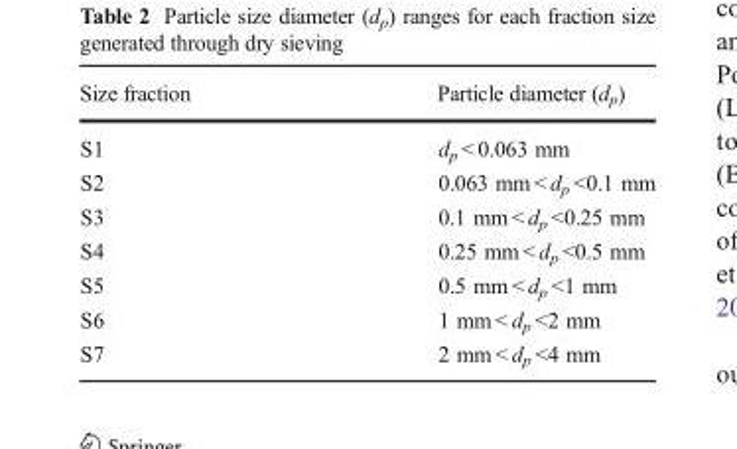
<table><thead><tr><td>Size fraction</td><td>Particle diameter (d<sub>p</sub>)</td></tr></thead><tbody><tr><td>S1</td><td>d<sub>p</sub> &lt; 0.063 mm</td></tr><tr><td>S2</td><td>0.063 mm &lt; d<sub>p</sub> &lt;0.1 mm</td></tr><tr><td>S3</td><td>0.1 mm &lt; d<sub>p</sub> &lt;0.25 mm</td></tr><tr><td>S4</td><td>0.25 mm &lt; d<sub>p</sub> &lt;0.5 mm</td></tr><tr><td>S5</td><td>0.5 mm &lt; d<sub>p</sub> &lt;1 mm</td></tr><tr><td>S6</td><td>1 mm &lt; d<sub>p</sub> &lt;2 mm</td></tr><tr><td>S7</td><td>2 mm &lt; d<sub>p</sub> &lt;4 mm</td></tr></tbody></table>